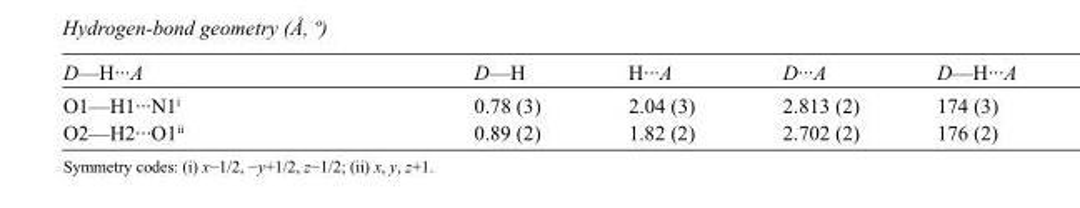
<table><tbody><tr><td>D—H···A</td><td>D—H</td><td>H···A</td><td>D···A</td><td>D—H···A</td></tr><tr><td>O1—H1···N1<sup>i</sup></td><td>0.78 (3)</td><td>2.04 (3)</td><td>2.813 (2)</td><td>174 (3)</td></tr><tr><td>O2—H2···O1<sup>ii</sup></td><td>0.89 (2)</td><td>1.82 (2)</td><td>2.702 (2)</td><td>176 (2)</td></tr></tbody></table>